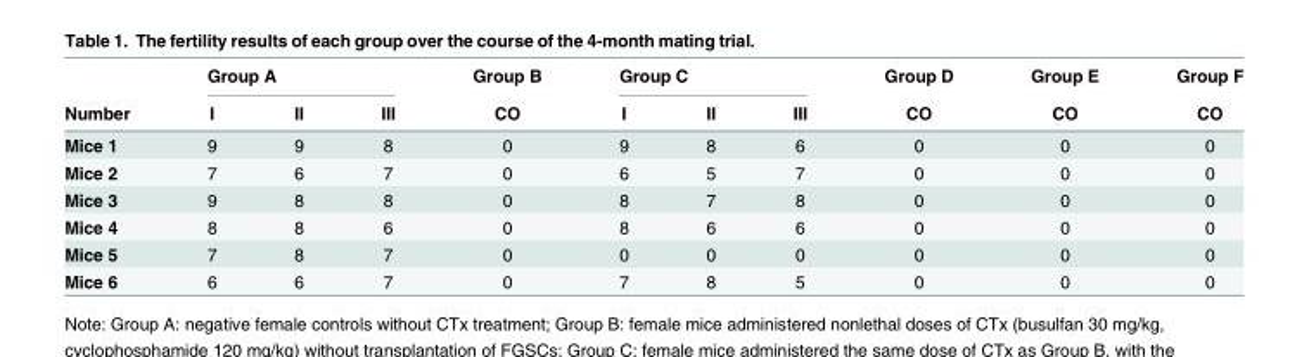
<table><thead><tr><td rowspan="2">Number</td><td colspan="3">Group A</td><td rowspan="2">Group B CO</td><td colspan="3">Group C</td><td rowspan="2">Group D CO</td><td rowspan="2">Group E CO</td><td rowspan="2">Group F CO</td></tr><tr><td>I</td><td>II</td><td>III</td><td>I</td><td>II</td><td>III</td></tr></thead><tbody><tr><td>Mice 1</td><td>9</td><td>9</td><td>8</td><td>0</td><td>9</td><td>8</td><td>6</td><td>0</td><td>0</td><td>0</td></tr><tr><td>Mice 2</td><td>7</td><td>6</td><td>7</td><td>0</td><td>6</td><td>5</td><td>7</td><td>0</td><td>0</td><td>0</td></tr><tr><td>Mice 3</td><td>9</td><td>8</td><td>8</td><td>0</td><td>8</td><td>7</td><td>8</td><td>0</td><td>0</td><td>0</td></tr><tr><td>Mice 4</td><td>8</td><td>8</td><td>6</td><td>0</td><td>8</td><td>6</td><td>6</td><td>0</td><td>0</td><td>0</td></tr><tr><td>Mice 5</td><td>7</td><td>8</td><td>7</td><td>0</td><td>0</td><td>0</td><td>0</td><td>0</td><td>0</td><td>0</td></tr><tr><td>Mice 6</td><td>6</td><td>6</td><td>7</td><td>0</td><td>7</td><td>8</td><td>5</td><td>0</td><td>0</td><td>0</td></tr></tbody></table>